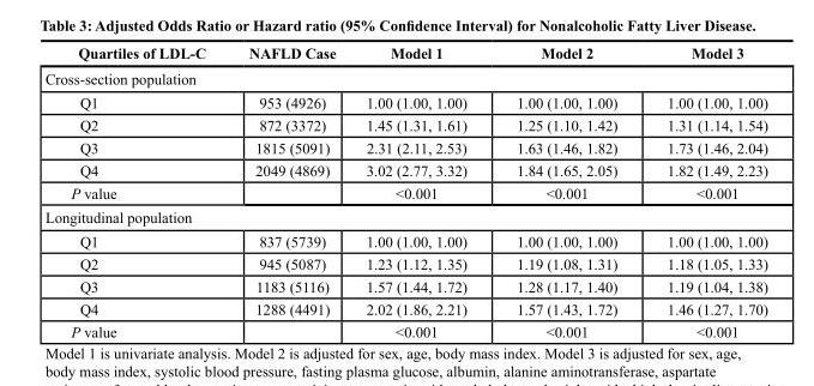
<table><thead><tr><td>Quartiles of LDL-C</td><td>NAFLD Case</td><td>Model 1</td><td>Model 2</td><td>Model 3</td></tr></thead><tbody><tr><td colspan="5">Cross-section population</td></tr><tr><td>Q1</td><td>953 (4926)</td><td>1.00 (1.00, 1.00)</td><td>1.00 (1.00, 1.00)</td><td>1.00 (1.00, 1.00)</td></tr><tr><td>Q2</td><td>872 (3372)</td><td>1.45 (1.31, 1.61)</td><td>1.25 (1.10, 1.42)</td><td>1.31 (1.14, 1.54)</td></tr><tr><td>Q3</td><td>1815 (5091)</td><td>2.31 (2.11, 2.53)</td><td>1.63 (1.46, 1.82)</td><td>1.73 (1.46, 2.04)</td></tr><tr><td>Q4</td><td>2049 (4869)</td><td>3.02 (2.77, 3.32)</td><td>1.84 (1.65, 2.05)</td><td>1.82 (1.49, 2.23)</td></tr><tr><td>P value</td><td></td><td>&lt;0.001</td><td>&lt;0.001</td><td>&lt;0.001</td></tr><tr><td colspan="5">Longitudinal population</td></tr><tr><td>Q1</td><td>837 (5739)</td><td>1.00 (1.00, 1.00)</td><td>1.00 (1.00, 1.00)</td><td>1.00 (1.00, 1.00)</td></tr><tr><td>Q2</td><td>945 (5087)</td><td>1.23 (1.12, 1.35)</td><td>1.19 (1.08, 1.31)</td><td>1.18 (1.05, 1.33)</td></tr><tr><td>Q3</td><td>1183 (5116)</td><td>1.57 (1.44, 1.72)</td><td>1.28 (1.17, 1.40)</td><td>1.19 (1.04, 1.38)</td></tr><tr><td>Q4</td><td>1288 (4491)</td><td>2.02 (1.86, 2.21)</td><td>1.57 (1.43, 1.72)</td><td>1.46 (1.27, 1.70)</td></tr><tr><td>P value</td><td></td><td>&lt;0.001</td><td>&lt;0.001</td><td>&lt;0.001</td></tr></tbody></table>